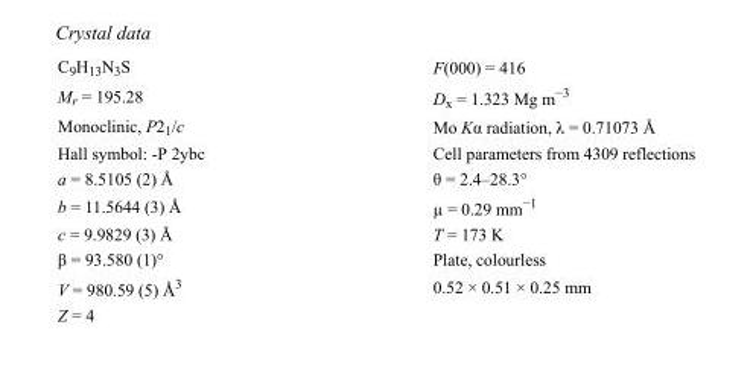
<table><tbody><tr><td>C<sub>9</sub>H<sub>13</sub>N<sub>3</sub>S</td><td>F(000) = 416</td></tr><tr><td>M<sub>r</sub> = 195.28</td><td>D<sub>x</sub> = 1.323 Mg m<sup>−3</sup></td></tr><tr><td>Monoclinic, P2<sub>1</sub>/c</td><td>Mo Kα radiation, λ = 0.71073 Å</td></tr><tr><td>Hall symbol: -P 2ybc</td><td>Cell parameters from 4309 reflections</td></tr><tr><td>a = 8.5105 (2) Å</td><td>θ = 2.4–28.3°</td></tr><tr><td>b = 11.5644 (3) Å</td><td>µ = 0.29 mm<sup>−1</sup></td></tr><tr><td>c = 9.9829 (3) Å</td><td>T = 173 K</td></tr><tr><td>β = 93.580 (1)°</td><td>Plate, colourless</td></tr><tr><td>V = 980.59 (5) Å<sup>3</sup></td><td>0.52 × 0.51 × 0.25 mm</td></tr><tr><td>Z = 4</td><td></td></tr></tbody></table>